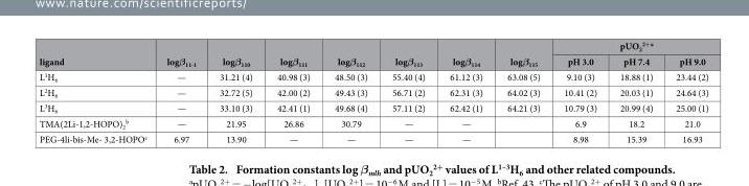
<table><thead><tr><td rowspan="2">ligand</td><td rowspan="2">logβ<sub>11-1</sub></td><td rowspan="2">logβ<sub>110</sub></td><td rowspan="2">logβ<sub>111</sub></td><td rowspan="2">logβ<sub>112</sub></td><td rowspan="2">logβ<sub>113</sub></td><td rowspan="2">logβ<sub>114</sub></td><td rowspan="2">logβ<sub>115</sub></td><td colspan="3">pUO<sub>2</sub> <sup>2+</sup> a</td></tr><tr><td>pH 3.0</td><td>pH 7.4</td><td>pH 9.0</td></tr></thead><tbody><tr><td>L<sup>1</sup>H<sub>6</sub></td><td>—</td><td>31.21 (4)</td><td>40.98 (3)</td><td>48.50 (3)</td><td>55.40 (4)</td><td>61.12 (3)</td><td>63.08 (5)</td><td>9.10 (3)</td><td>18.88 (1)</td><td>23.44 (2)</td></tr><tr><td>L<sup>2</sup>H<sub>6</sub></td><td>—</td><td>32.72 (5)</td><td>42.00 (2)</td><td>49.43 (3)</td><td>56.71 (2)</td><td>62.31 (3)</td><td>64.02 (3)</td><td>10.41 (2)</td><td>20.03 (1)</td><td>24.64 (3)</td></tr><tr><td>L<sup>3</sup>H<sub>6</sub></td><td>—</td><td>33.10 (3)</td><td>42.41 (1)</td><td>49.68 (4)</td><td>57.11 (2)</td><td>62.42 (1)</td><td>64.21 (3)</td><td>10.79 (3)</td><td>20.99 (4)</td><td>25.00 (1)</td></tr><tr><td>TMA(2Li-1,2-HOPO)<sub>2</sub> <sup>b</sup></td><td>—</td><td>21.95</td><td>26.86</td><td>30.79</td><td>—</td><td>—</td><td></td><td>6.9</td><td>18.2</td><td>21.0</td></tr><tr><td>PEG-4li-bis-Me- 3,2-HOPO<sup>c</sup></td><td>6.97</td><td>13.90</td><td>—</td><td>—</td><td>—</td><td>—</td><td></td><td>8.98</td><td>15.39</td><td>16.93</td></tr></tbody></table>